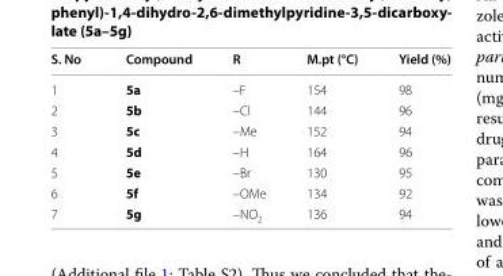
<table><thead><tr><td>S. No</td><td>Compound</td><td>R</td><td>M.pt (°C)</td><td>Yield (%)</td></tr></thead><tbody><tr><td>1</td><td>5a</td><td>–F</td><td>154</td><td>98</td></tr><tr><td>2</td><td>5b</td><td>–Cl</td><td>144</td><td>96</td></tr><tr><td>3</td><td>5c</td><td>–Me</td><td>152</td><td>94</td></tr><tr><td>4</td><td>5d</td><td>–H</td><td>164</td><td>96</td></tr><tr><td>5</td><td>5e</td><td>–Br</td><td>130</td><td>95</td></tr><tr><td>6</td><td>5f</td><td>–OMe</td><td>134</td><td>92</td></tr><tr><td>7</td><td>5g</td><td>–NO<sub>2</sub></td><td>136</td><td>94</td></tr></tbody></table>